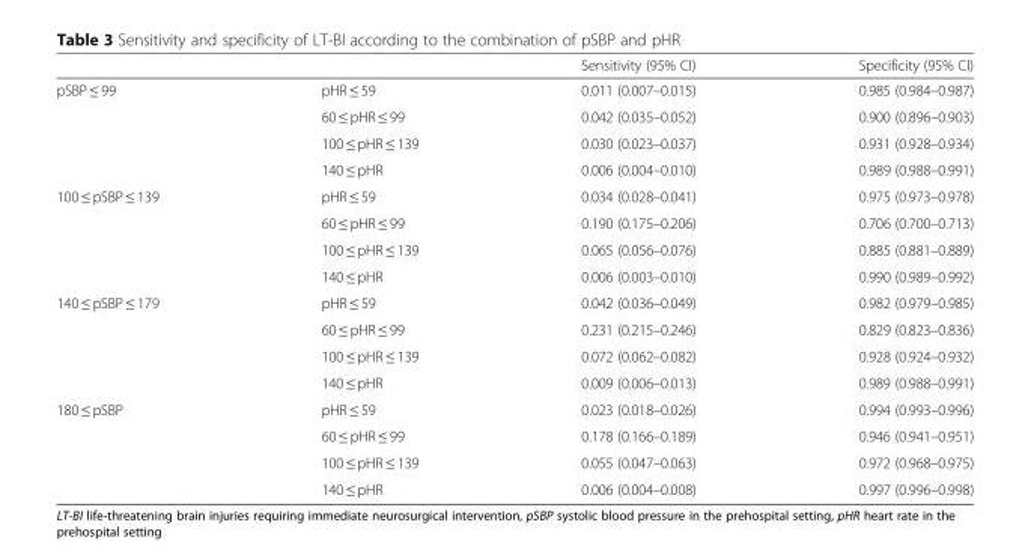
<table><thead><tr><td></td><td></td><td>Sensitivity (95% CI)</td><td>Specificity (95% CI)</td></tr></thead><tbody><tr><td rowspan="4">pSBP ≤ 99</td><td>pHR ≤ 59</td><td>0.011 (0.007–0.015)</td><td>0.985 (0.984–0.987)</td></tr><tr><td>60 ≤ pHR ≤ 99</td><td>0.042 (0.035–0.052)</td><td>0.900 (0.896–0.903)</td></tr><tr><td>100 ≤ pHR ≤ 139</td><td>0.030 (0.023–0.037)</td><td>0.931 (0.928–0.934)</td></tr><tr><td>140 ≤ pHR</td><td>0.006 (0.004–0.010)</td><td>0.989 (0.988–0.991)</td></tr><tr><td rowspan="4">100 ≤ pSBP ≤ 139</td><td>pHR ≤ 59</td><td>0.034 (0.028–0.041)</td><td>0.975 (0.973–0.978)</td></tr><tr><td>60 ≤ pHR ≤ 99</td><td>0.190 (0.175–0.206)</td><td>0.706 (0.700–0.713)</td></tr><tr><td>100 ≤ pHR ≤ 139</td><td>0.065 (0.056–0.076)</td><td>0.885 (0.881–0.889)</td></tr><tr><td>140 ≤ pHR</td><td>0.006 (0.003–0.010)</td><td>0.990 (0.989–0.992)</td></tr><tr><td rowspan="4">140 ≤ pSBP ≤ 179</td><td>pHR ≤ 59</td><td>0.042 (0.036–0.049)</td><td>0.982 (0.979–0.985)</td></tr><tr><td>60 ≤ pHR ≤ 99</td><td>0.231 (0.215–0.246)</td><td>0.829 (0.823–0.836)</td></tr><tr><td>100 ≤ pHR ≤ 139</td><td>0.072 (0.062–0.082)</td><td>0.928 (0.924–0.932)</td></tr><tr><td>140 ≤ pHR</td><td>0.009 (0.006–0.013)</td><td>0.989 (0.988–0.991)</td></tr><tr><td rowspan="4">180 ≤ pSBP</td><td>pHR ≤ 59</td><td>0.023 (0.018–0.026)</td><td>0.994 (0.993–0.996)</td></tr><tr><td>60 ≤ pHR ≤ 99</td><td>0.178 (0.166–0.189)</td><td>0.946 (0.941–0.951)</td></tr><tr><td>100 ≤ pHR ≤ 139</td><td>0.055 (0.047–0.063)</td><td>0.972 (0.968–0.975)</td></tr><tr><td>140 ≤ pHR</td><td>0.006 (0.004–0.008)</td><td>0.997 (0.996–0.998)</td></tr></tbody></table>